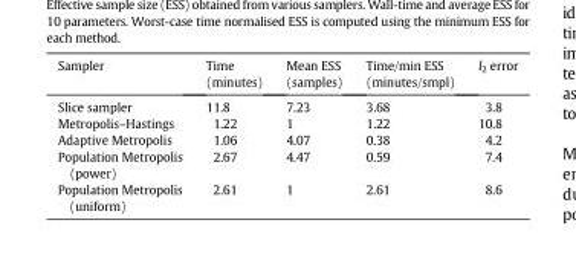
<table><thead><tr><td>Sampler</td><td>Time (minutes)</td><td>Mean ESS (samples)</td><td>Time/min ESS (minutes/smpl)</td><td>l<sub>2</sub> error</td></tr></thead><tbody><tr><td>Slice sampler</td><td>11.8</td><td>7.23</td><td>3.68</td><td>3.8</td></tr><tr><td>Metropolis–Hastings</td><td>1.22</td><td>1</td><td>1.22</td><td>10.8</td></tr><tr><td>Adaptive Metropolis</td><td>1.06</td><td>4.07</td><td>0.38</td><td>4.2</td></tr><tr><td>Population Metropolis (power)</td><td>2.67</td><td>4.47</td><td>0.59</td><td>7.4</td></tr><tr><td>Population Metropolis (uniform)</td><td>2.61</td><td>1</td><td>2.61</td><td>8.6</td></tr></tbody></table>